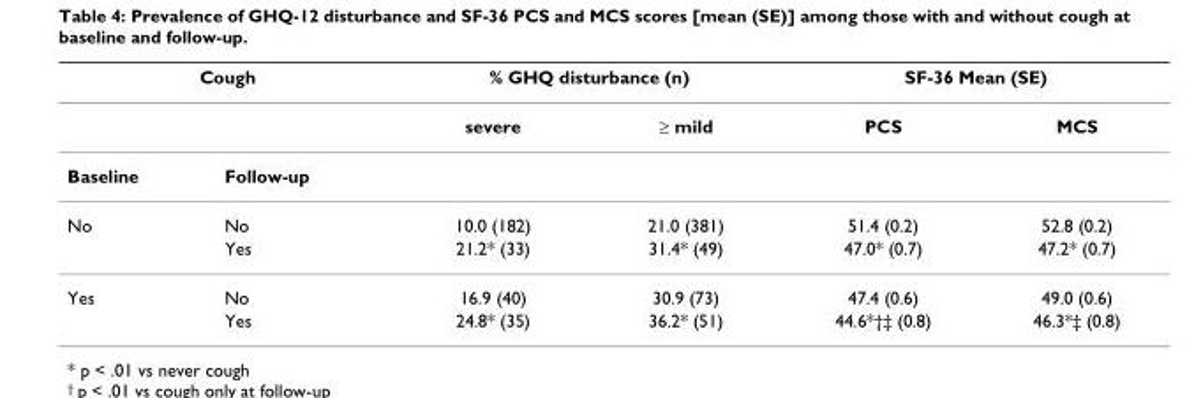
<table><thead><tr><td colspan="2">Cough</td><td colspan="2">% GHQ disturbance (n)</td><td colspan="2">SF-36 Mean (SE)</td></tr><tr><td></td><td></td><td>severe</td><td>≥ mild</td><td>PCS</td><td>MCS</td></tr></thead><tbody><tr><td>Baseline</td><td>Follow-up</td><td></td><td></td><td></td><td></td></tr><tr><td rowspan="2">No</td><td>No</td><td>10.0 (182)</td><td>21.0 (381)</td><td>51.4 (0.2)</td><td>52.8 (0.2)</td></tr><tr><td>Yes</td><td>21.2* (33)</td><td>31.4* (49)</td><td>47.0* (0.7)</td><td>47.2* (0.7)</td></tr><tr><td rowspan="2">Yes</td><td>No</td><td>16.9 (40)</td><td>30.9 (73)</td><td>47.4 (0.6)</td><td>49.0 (0.6)</td></tr><tr><td>Yes</td><td>24.8* (35)</td><td>36.2* (51)</td><td>44.6*†‡ (0.8)</td><td>46.3*‡ (0.8)</td></tr></tbody></table>